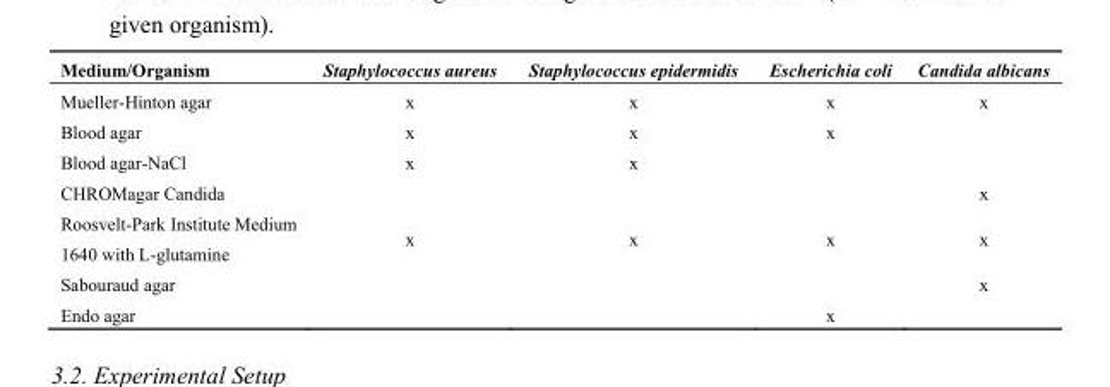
<table><thead><tr><td>Medium/Organism</td><td>Staphylococcus aureus</td><td>Staphylococcus epidermidis</td><td>Escherichia coli</td><td>Candida albicans</td></tr></thead><tbody><tr><td>Mueller-Hinton agar</td><td>x</td><td>x</td><td>x</td><td>x</td></tr><tr><td>Blood agar</td><td>x</td><td>x</td><td>x</td><td></td></tr><tr><td>Blood agar-NaCl</td><td>x</td><td>x</td><td></td><td></td></tr><tr><td>CHROMagar Candida</td><td></td><td></td><td></td><td>x</td></tr><tr><td>Roosvelt-Park Institute Medium 1640 with L-glutamine</td><td>x</td><td>x</td><td>x</td><td>x</td></tr><tr><td>Sabouraud agar</td><td></td><td></td><td></td><td>x</td></tr><tr><td>Endo agar</td><td></td><td></td><td>x</td><td></td></tr></tbody></table>